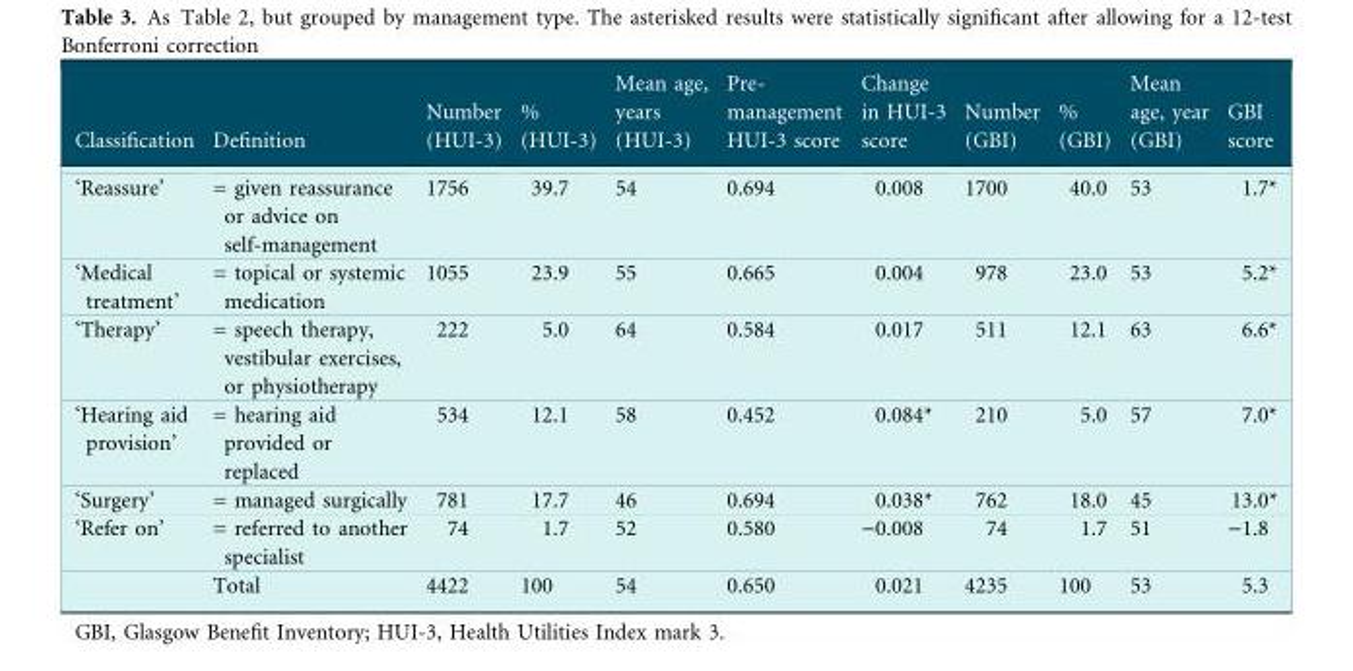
<table><thead><tr><td>Classification</td><td>Definition</td><td>Number (HUI-3)</td><td>% (HUI-3)</td><td>Mean age, years (HUI-3)</td><td>Pre- management HUI-3 score</td><td>Change in HUI-3 score</td><td>Number (GBI)</td><td>% (GBI)</td><td>Mean age, year (GBI)</td><td>GBI score</td></tr></thead><tbody><tr><td>‘Reassure’</td><td>= given reassurance or advice on self-management</td><td>1756</td><td>39.7</td><td>54</td><td>0.694</td><td>0.008</td><td>1700</td><td>40.0</td><td>53</td><td>1.7*</td></tr><tr><td>‘Medical treatment’</td><td>= topical or systemic medication</td><td>1055</td><td>23.9</td><td>55</td><td>0.665</td><td>0.004</td><td>978</td><td>23.0</td><td>53</td><td>5.2*</td></tr><tr><td>‘Therapy’</td><td>= speech therapy, vestibular exercises, or physiotherapy</td><td>222</td><td>5.0</td><td>64</td><td>0.584</td><td>0.017</td><td>511</td><td>12.1</td><td>63</td><td>6.6*</td></tr><tr><td>‘Hearing aid provision’</td><td>= hearing aid provided or replaced</td><td>534</td><td>12.1</td><td>58</td><td>0.452</td><td>0.084*</td><td>210</td><td>5.0</td><td>57</td><td>7.0*</td></tr><tr><td>‘Surgery’</td><td>= managed surgically</td><td>781</td><td>17.7</td><td>46</td><td>0.694</td><td>0.038*</td><td>762</td><td>18.0</td><td>45</td><td>13.0*</td></tr><tr><td rowspan="2">‘Refer on’</td><td>= referred to another specialist</td><td>74</td><td>1.7</td><td>52</td><td>0.580</td><td>−0.008</td><td>74</td><td>1.7</td><td>51</td><td>−1.8</td></tr><tr><td>Total</td><td>4422</td><td>100</td><td>54</td><td>0.650</td><td>0.021</td><td>4235</td><td>100</td><td>53</td><td>5.3</td></tr></tbody></table>